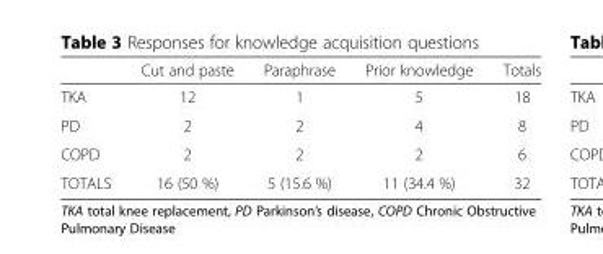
<table><thead><tr><td></td><td>Cut and paste</td><td>Paraphrase</td><td>Prior knowledge</td><td>Totals</td></tr></thead><tbody><tr><td>TKA</td><td>12</td><td>1</td><td>5</td><td>18</td></tr><tr><td>PD</td><td>2</td><td>2</td><td>4</td><td>8</td></tr><tr><td>COPD</td><td>2</td><td>2</td><td>2</td><td>6</td></tr><tr><td>TOTALS</td><td>16 (50 %)</td><td>5 (15.6 %)</td><td>11 (34.4 %)</td><td>32</td></tr></tbody></table>